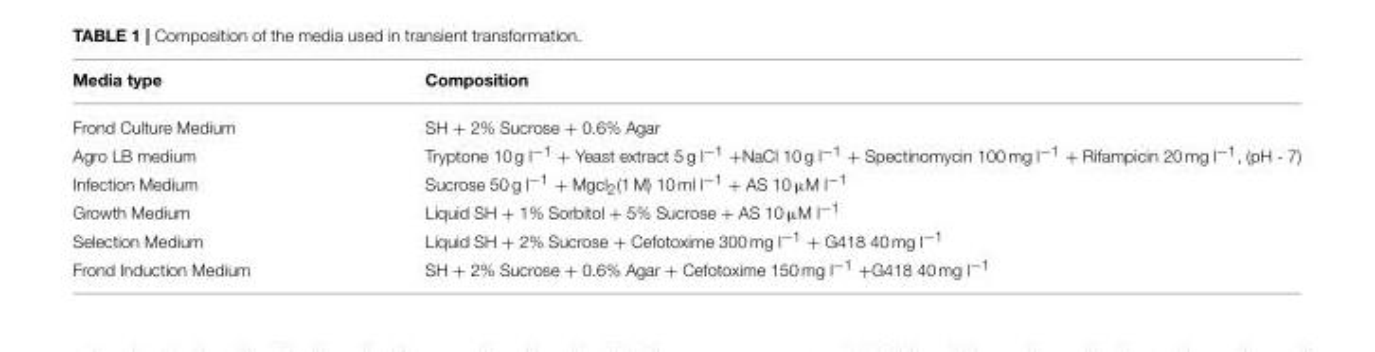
<table><thead><tr><td>Media type</td><td>Composition</td></tr></thead><tbody><tr><td>Frond Culture Medium</td><td>SH + 2% Sucrose + 0.6% Agar</td></tr><tr><td>Agro LB medium</td><td>Tryptone 10 g l<sup>−1</sup> + Yeast extract 5 g l<sup>−1</sup> +NaCl 10 g l<sup>−1</sup> + Spectinomycin 100 mg l<sup>−1</sup> + Rifampicin 20 mg l<sup>−1</sup>, (pH - 7)</td></tr><tr><td>Infection Medium</td><td>Sucrose 50 g l<sup>−1</sup> + Mgcl<sub>2</sub>(1 M) 10 ml l<sup>−1</sup> + AS 10 µM l<sup>−1</sup></td></tr><tr><td>Growth Medium</td><td>Liquid SH + 1% Sorbitol + 5% Sucrose + AS 10 µM l<sup>−1</sup></td></tr><tr><td>Selection Medium</td><td>Liquid SH + 2% Sucrose + Cefotoxime 300 mg l<sup>−1</sup> + G418 40 mg l<sup>−1</sup></td></tr><tr><td>Frond Induction Medium</td><td>SH + 2% Sucrose + 0.6% Agar + Cefotoxime 150 mg l<sup>−1</sup> +G418 40 mg l<sup>−1</sup></td></tr></tbody></table>